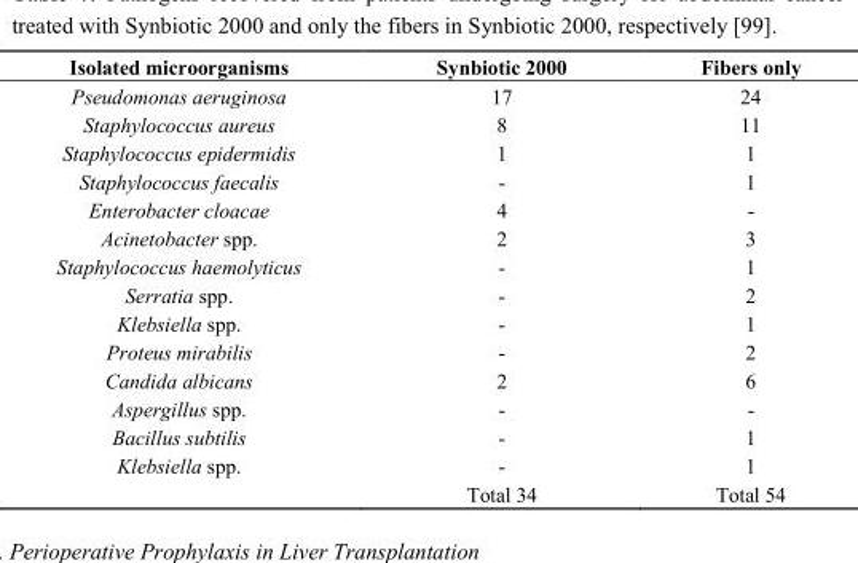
<table><thead><tr><td>Isolated microorganisms</td><td>Synbiotic 2000</td><td>Fibers only</td></tr></thead><tbody><tr><td>Pseudomonas aeruginosa</td><td>17</td><td>24</td></tr><tr><td>Staphylococcus aureus</td><td>8</td><td>11</td></tr><tr><td>Staphylococcus epidermidis</td><td>1</td><td>1</td></tr><tr><td>Staphylococcus faecalis</td><td>-</td><td>1</td></tr><tr><td>Enterobacter cloacae</td><td>4</td><td>-</td></tr><tr><td>Acinetobacter spp.</td><td>2</td><td>3</td></tr><tr><td>Staphylococcus haemolyticus</td><td>-</td><td>1</td></tr><tr><td>Serratia spp.</td><td>-</td><td>2</td></tr><tr><td>Klebsiella spp.</td><td>-</td><td>1</td></tr><tr><td>Proteus mirabilis</td><td>-</td><td>2</td></tr><tr><td>Candida albicans</td><td>2</td><td>6</td></tr><tr><td>Aspergillus spp.</td><td>-</td><td>-</td></tr><tr><td>Bacillus subtilis</td><td>-</td><td>1</td></tr><tr><td rowspan="2">Klebsiella spp.</td><td>-</td><td>1</td></tr><tr><td>Total 34</td><td>Total 54</td></tr></tbody></table>